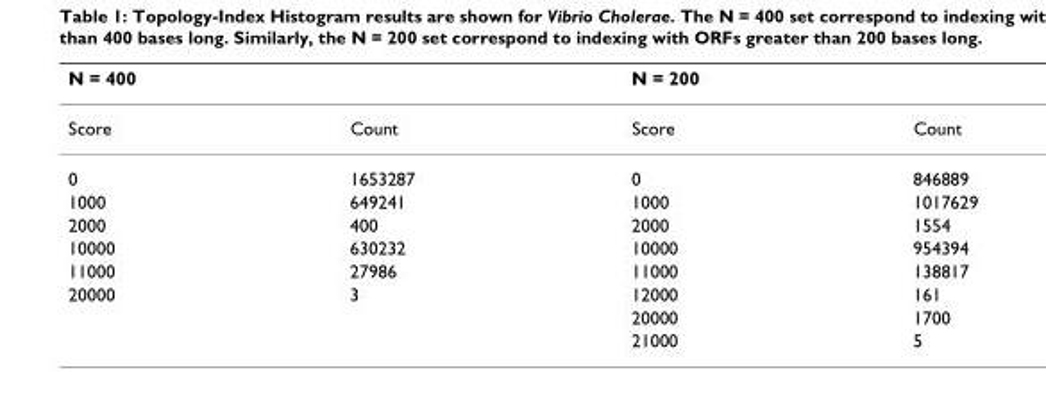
<table><thead><tr><td>N = 400</td><td></td><td>N = 200</td><td></td></tr></thead><tbody><tr><td>Score</td><td>Count</td><td>Score</td><td>Count</td></tr><tr><td>0</td><td>1653287</td><td>0</td><td>846889</td></tr><tr><td>1000</td><td>649241</td><td>1000</td><td>1017629</td></tr><tr><td>2000</td><td>400</td><td>2000</td><td>1554</td></tr><tr><td>10000</td><td>630232</td><td>10000</td><td>954394</td></tr><tr><td>11000</td><td>27986</td><td>11000</td><td>138817</td></tr><tr><td rowspan="3">20000</td><td>3</td><td>12000</td><td>161</td></tr><tr><td></td><td>20000</td><td>1700</td></tr><tr><td></td><td>21000</td><td>5</td></tr></tbody></table>